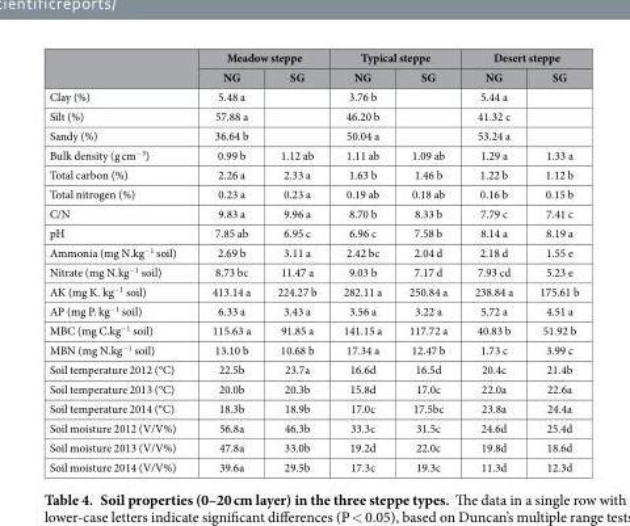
<table><thead><tr><td rowspan="2"></td><td colspan="2">Meadow steppe</td><td colspan="2">Typical steppe</td><td colspan="2">Desert steppe</td></tr><tr><td>NG</td><td>SG</td><td>NG</td><td>SG</td><td>NG</td><td>SG</td></tr></thead><tbody><tr><td>Clay (%)</td><td>5.48 a</td><td></td><td>3.76 b</td><td></td><td>5.44 a</td><td></td></tr><tr><td>Silt (%)</td><td>57.88 a</td><td></td><td>46.20 b</td><td></td><td>41.32 c</td><td></td></tr><tr><td>Sandy (%)</td><td>36.64 b</td><td></td><td>50.04 a</td><td></td><td>53.24 a</td><td></td></tr><tr><td>Bulk density (g cm<sup>−3</sup>)</td><td>0.99 b</td><td>1.12 ab</td><td>1.11 ab</td><td>1.09 ab</td><td>1.29 a</td><td>1.33 a</td></tr><tr><td>Total carbon (%)</td><td>2.26 a</td><td>2.33 a</td><td>1.63 b</td><td>1.46 b</td><td>1.22 b</td><td>1.12 b</td></tr><tr><td>Total nitrogen (%)</td><td>0.23 a</td><td>0.23 a</td><td>0.19 ab</td><td>0.18 ab</td><td>0.16 b</td><td>0.15 b</td></tr><tr><td>C/N</td><td>9.83 a</td><td>9.96 a</td><td>8.70 b</td><td>8.33 b</td><td>7.79 c</td><td>7.41 c</td></tr><tr><td>pH</td><td>7.85 ab</td><td>6.95 c</td><td>6.96 c</td><td>7.58 b</td><td>8.14 a</td><td>8.19 a</td></tr><tr><td>Ammonia (mg N.kg<sup>−1</sup> soil)</td><td>2.69 b</td><td>3.11 a</td><td>2.42 bc</td><td>2.04 d</td><td>2.18 d</td><td>1.55 e</td></tr><tr><td>Nitrate (mg N.kg<sup>−1</sup> soil)</td><td>8.73 bc</td><td>11.47 a</td><td>9.03 b</td><td>7.17 d</td><td>7.93 cd</td><td>5.23 e</td></tr><tr><td>AK (mg K. kg<sup>−1</sup> soil)</td><td>413.14 a</td><td>224.27 b</td><td>282.11 a</td><td>250.84 a</td><td>238.84 a</td><td>175.61 b</td></tr><tr><td>AP (mg P. kg<sup>−1</sup> soil)</td><td>6.33 a</td><td>3.43 a</td><td>3.56 a</td><td>3.22 a</td><td>5.72 a</td><td>4.51 a</td></tr><tr><td>MBC (mg C.kg<sup>−1</sup> soil)</td><td>115.63 a</td><td>91.85 a</td><td>141.15 a</td><td>117.72 a</td><td>40.83 b</td><td>51.92 b</td></tr><tr><td>MBN (mg N.kg<sup>−1</sup> soil)</td><td>13.10 b</td><td>10.68 b</td><td>17.34 a</td><td>12.47 b</td><td>1.73 c</td><td>3.99 c</td></tr><tr><td>Soil temperature 2012 (°C)</td><td>22.5b</td><td>23.7a</td><td>16.6d</td><td>16.5d</td><td>20.4c</td><td>21.4b</td></tr><tr><td>Soil temperature 2013 (°C)</td><td>20.0b</td><td>20.3b</td><td>15.8d</td><td>17.0c</td><td>22.0a</td><td>22.6a</td></tr><tr><td>Soil temperature 2014 (°C)</td><td>18.3b</td><td>18.9b</td><td>17.0c</td><td>17.5bc</td><td>23.8a</td><td>24.4a</td></tr><tr><td>Soil moisture 2012 (V/V%)</td><td>56.8a</td><td>46.3b</td><td>33.3c</td><td>31.5c</td><td>24.6d</td><td>25.4d</td></tr><tr><td>Soil moisture 2013 (V/V%)</td><td>47.8a</td><td>33.0b</td><td>19.2d</td><td>22.0c</td><td>19.8d</td><td>18.6d</td></tr><tr><td>Soil moisture 2014 (V/V%)</td><td>39.6a</td><td>29.5b</td><td>17.3c</td><td>19.3c</td><td>11.3d</td><td>12.3d</td></tr></tbody></table>